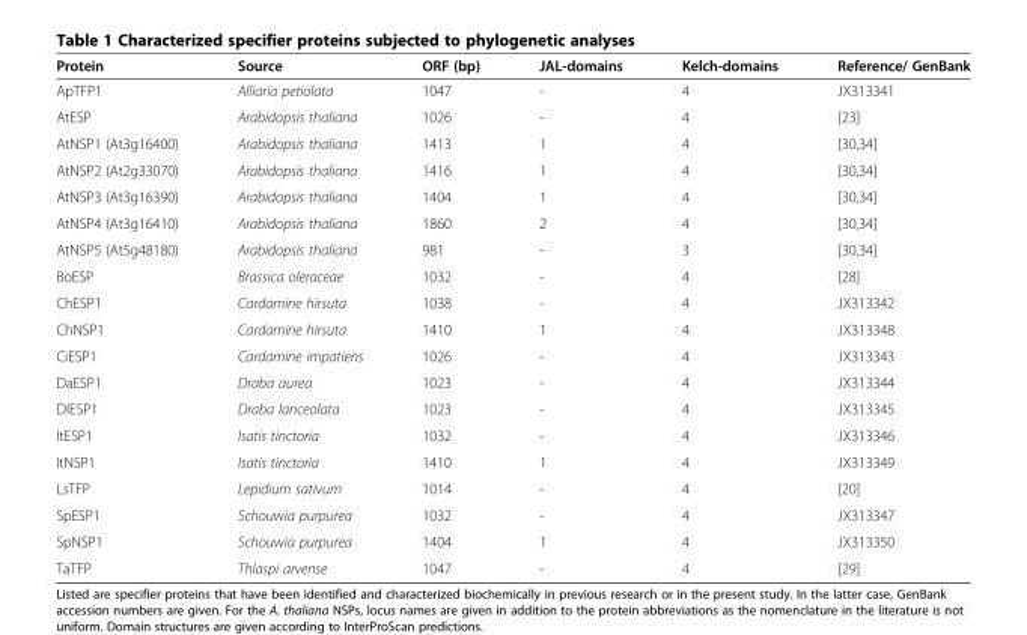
<table><thead><tr><td>Protein</td><td>Source</td><td>ORF (bp)</td><td>JAL-domains</td><td>Kelch-domains</td><td>Reference/ GenBank</td></tr></thead><tbody><tr><td>ApTFP1</td><td>Alliaria petiolata</td><td>1047</td><td>-</td><td>4</td><td>JX313341</td></tr><tr><td>AtESP</td><td>Arabidopsis thaliana</td><td>1026</td><td>-</td><td>4</td><td>[23]</td></tr><tr><td>AtNSP1 (At3g16400)</td><td>Arabidopsis thaliana</td><td>1413</td><td>1</td><td>4</td><td>[30,34]</td></tr><tr><td>AtNSP2 (At2g33070)</td><td>Arabidopsis thaliana</td><td>1416</td><td>1</td><td>4</td><td>[30,34]</td></tr><tr><td>AtNSP3 (At3g16390)</td><td>Arabidopsis thaliana</td><td>1404</td><td>1</td><td>4</td><td>[30,34]</td></tr><tr><td>AtNSP4 (At3g16410)</td><td>Arabidopsis thaliana</td><td>1860</td><td>2</td><td>4</td><td>[30,34]</td></tr><tr><td>AtNSP5 (At5g48180)</td><td>Arabidopsis thaliana</td><td>981</td><td>-</td><td>3</td><td>[30,34]</td></tr><tr><td>BoESP</td><td>Brassica oleraceae</td><td>1032</td><td>-</td><td>4</td><td>[28]</td></tr><tr><td>ChESP1</td><td>Cardamine hirsuta</td><td>1038</td><td>-</td><td>4</td><td>JX313342</td></tr><tr><td>ChNSP1</td><td>Cardamine hirsuta</td><td>1410</td><td>1</td><td>4</td><td>JX313348</td></tr><tr><td>CiESP1</td><td>Cardamine impatiens</td><td>1026</td><td>-</td><td>4</td><td>JX313343</td></tr><tr><td>DaESP1</td><td>Draba aurea</td><td>1023</td><td>-</td><td>4</td><td>JX313344</td></tr><tr><td>DlESP1</td><td>Draba lanceolata</td><td>1023</td><td>-</td><td>4</td><td>JX313345</td></tr><tr><td>ItESP1</td><td>Isatis tinctoria</td><td>1032</td><td>-</td><td>4</td><td>JX313346</td></tr><tr><td>ItNSP1</td><td>Isatis tinctoria</td><td>1410</td><td>1</td><td>4</td><td>JX313349</td></tr><tr><td>LsTFP</td><td>Lepidium sativum</td><td>1014</td><td>-</td><td>4</td><td>[20]</td></tr><tr><td>SpESP1</td><td>Schouwia purpurea</td><td>1032</td><td>-</td><td>4</td><td>JX313347</td></tr><tr><td>SpNSP1</td><td>Schouwia purpurea</td><td>1404</td><td>1</td><td>4</td><td>JX313350</td></tr><tr><td>TaTFP</td><td>Thlaspi arvense</td><td>1047</td><td>-</td><td>4</td><td>[29]</td></tr></tbody></table>